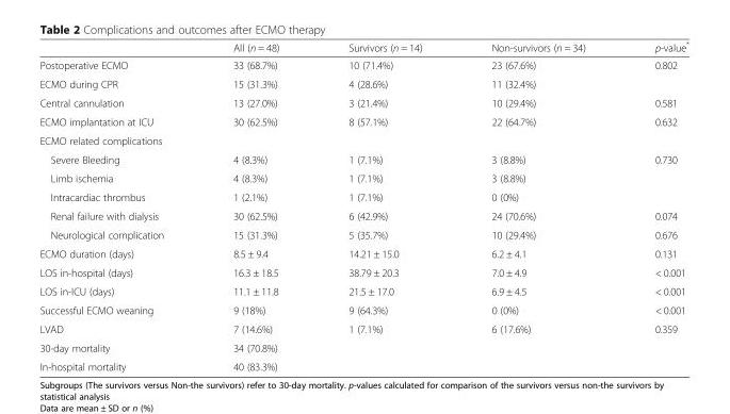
<table><thead><tr><td></td><td>All (n = 48)</td><td>Survivors (n = 14)</td><td>Non-survivors (n = 34)</td><td>p-value*</td></tr></thead><tbody><tr><td>Postoperative ECMO</td><td>33 (68.7%)</td><td>10 (71.4%)</td><td>23 (67.6%)</td><td rowspan="2">0.802</td></tr><tr><td>ECMO during CPR</td><td>15 (31.3%)</td><td>4 (28.6%)</td><td>11 (32.4%)</td></tr><tr><td>Central cannulation</td><td>13 (27.0%)</td><td>3 (21.4%)</td><td>10 (29.4%)</td><td>0.581</td></tr><tr><td>ECMO implantation at ICU</td><td>30 (62.5%)</td><td>8 (57.1%)</td><td>22 (64.7%)</td><td>0.632</td></tr><tr><td colspan="5">ECMO related complications</td></tr><tr><td>Severe Bleeding</td><td>4 (8.3%)</td><td>1 (7.1%)</td><td>3 (8.8%)</td><td rowspan="3">0.730</td></tr><tr><td>Limb ischemia</td><td>4 (8.3%)</td><td>1 (7.1%)</td><td>3 (8.8%)</td></tr><tr><td>Intracardiac thrombus</td><td>1 (2.1%)</td><td>1 (7.1%)</td><td>0 (0%)</td></tr><tr><td>Renal failure with dialysis</td><td>30 (62.5%)</td><td>6 (42.9%)</td><td>24 (70.6%)</td><td>0.074</td></tr><tr><td>Neurological complication</td><td>15 (31.3%)</td><td>5 (35.7%)</td><td>10 (29.4%)</td><td>0.676</td></tr><tr><td>ECMO duration (days)</td><td>8.5 ± 9.4</td><td>14.21 ± 15.0</td><td>6.2 ± 4.1</td><td>0.131</td></tr><tr><td>LOS in-hospital (days)</td><td>16.3 ± 18.5</td><td>38.79 ± 20.3</td><td>7.0 ± 4.9</td><td>&lt; 0.001</td></tr><tr><td>LOS in-ICU (days)</td><td>11.1 ± 11.8</td><td>21.5 ± 17.0</td><td>6.9 ± 4.5</td><td>&lt; 0.001</td></tr><tr><td>Successful ECMO weaning</td><td>9 (18%)</td><td>9 (64.3%)</td><td>0 (0%)</td><td>&lt; 0.001</td></tr><tr><td>LVAD</td><td>7 (14.6%)</td><td>1 (7.1%)</td><td>6 (17.6%)</td><td>0.359</td></tr><tr><td>30-day mortality</td><td>34 (70.8%)</td><td></td><td></td><td></td></tr><tr><td>In-hospital mortality</td><td>40 (83.3%)</td><td></td><td></td><td></td></tr></tbody></table>